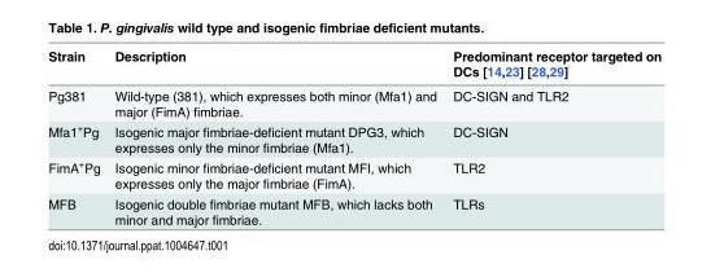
<table><thead><tr><td>Strain</td><td>Description</td><td>Predominant receptor targeted on DCs [14,23] [28,29]</td></tr></thead><tbody><tr><td>Pg381</td><td>Wild-type (381), which expresses both minor (Mfa1) and major (FimA) fimbriae.</td><td>DC-SIGN and TLR2</td></tr><tr><td>Mfa1<sup>+</sup>Pg</td><td>Isogenic major fimbriae-deficient mutant DPG3, which expresses only the minor fimbriae (Mfa1).</td><td>DC-SIGN</td></tr><tr><td>FimA<sup>+</sup>Pg</td><td>Isogenic minor fimbriae-deficient mutant MFI, which expresses only the major fimbriae (FimA).</td><td>TLR2</td></tr><tr><td>MFB</td><td>Isogenic double fimbriae mutant MFB, which lacks both minor and major fimbriae.</td><td>TLRs</td></tr></tbody></table>